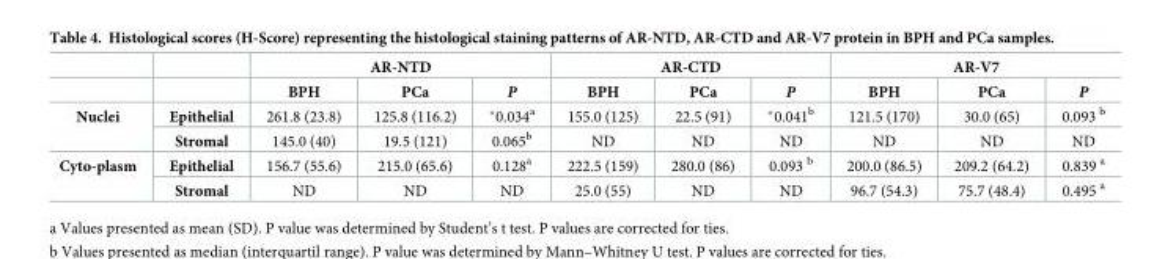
<table><thead><tr><td rowspan="2"></td><td rowspan="2"></td><td colspan="3">AR-NTD</td><td colspan="3">AR-CTD</td><td colspan="3">AR-V7</td></tr><tr><td>BPH</td><td>PCa</td><td>P</td><td>BPH</td><td>PCa</td><td>P</td><td>BPH</td><td>PCa</td><td>P</td></tr></thead><tbody><tr><td rowspan="2">Nuclei</td><td>Epithelial</td><td>261.8 (23.8)</td><td>125.8 (116.2)</td><td>*0.034<sup>a</sup></td><td>155.0 (125)</td><td>22.5 (91)</td><td>*0.041<sup>b</sup></td><td>121.5 (170)</td><td>30.0 (65)</td><td>0.093 <sup>b</sup></td></tr><tr><td>Stromal</td><td>145.0 (40)</td><td>19.5 (121)</td><td>0.065<sup>b</sup></td><td>ND</td><td>ND</td><td>ND</td><td>ND</td><td>ND</td><td>ND</td></tr><tr><td rowspan="2">Cyto-plasm</td><td>Epithelial</td><td>156.7 (55.6)</td><td>215.0 (65.6)</td><td>0.128<sup>a</sup></td><td>222.5 (159)</td><td>280.0 (86)</td><td>0.093 <sup>b</sup></td><td>200.0 (86.5)</td><td>209.2 (64.2)</td><td>0.839 <sup>a</sup></td></tr><tr><td>Stromal</td><td>ND</td><td>ND</td><td>ND</td><td>25.0 (55)</td><td>ND</td><td>ND</td><td>96.7 (54.3)</td><td>75.7 (48.4)</td><td>0.495 <sup>a</sup></td></tr></tbody></table>